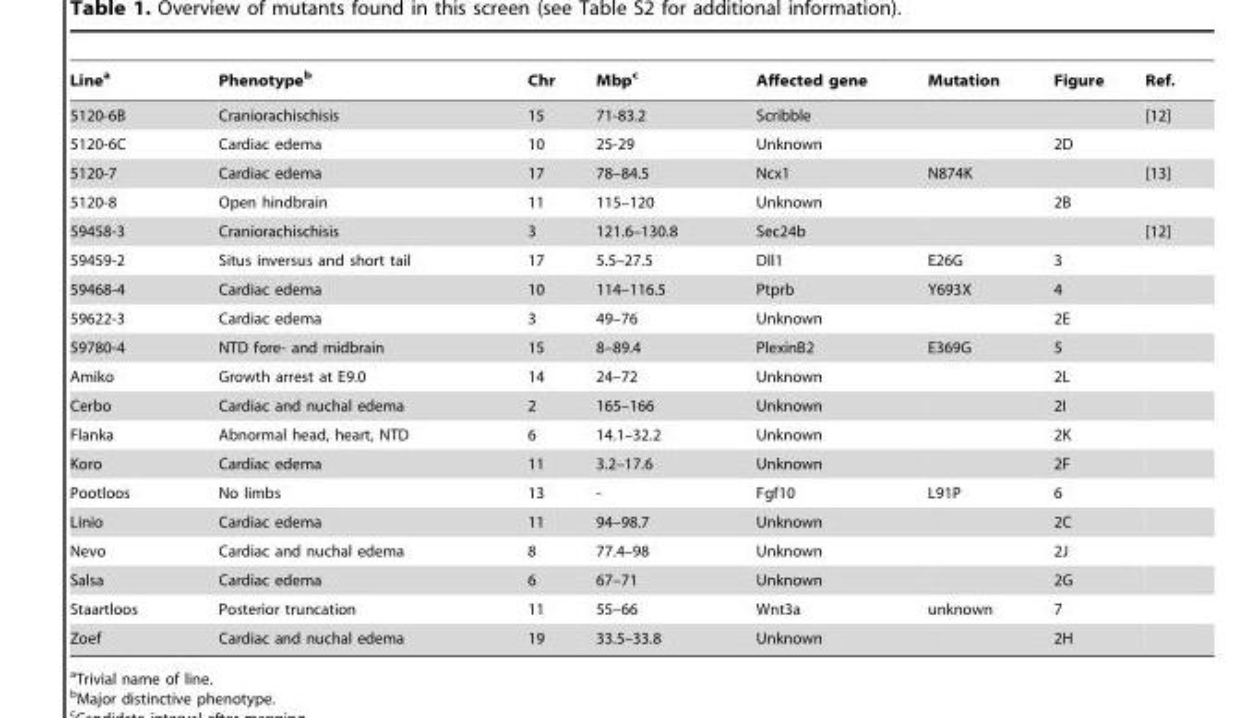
<table><thead><tr><td>Line<sup>a</sup></td><td>Phenotype<sup>b</sup></td><td>Chr</td><td>Mbp<sup>c</sup></td><td>Affected gene</td><td>Mutation</td><td>Figure</td><td>Ref.</td></tr></thead><tbody><tr><td>5120-6B</td><td>Craniorachischisis</td><td>15</td><td>71-83.2</td><td>Scribble</td><td></td><td></td><td>[12]</td></tr><tr><td>5120-6C</td><td>Cardiac edema</td><td>10</td><td>25-29</td><td>Unknown</td><td></td><td>2D</td><td></td></tr><tr><td>5120-7</td><td>Cardiac edema</td><td>17</td><td>78–84.5</td><td>Ncx1</td><td>N874K</td><td></td><td>[13]</td></tr><tr><td>5120-8</td><td>Open hindbrain</td><td>11</td><td>115–120</td><td>Unknown</td><td></td><td>2B</td><td></td></tr><tr><td>59458-3</td><td>Craniorachischisis</td><td>3</td><td>121.6–130.8</td><td>Sec24b</td><td></td><td></td><td>[12]</td></tr><tr><td>59459-2</td><td>Situs inversus and short tail</td><td>17</td><td>5.5–27.5</td><td>Dll1</td><td>E26G</td><td>3</td><td></td></tr><tr><td>59468-4</td><td>Cardiac edema</td><td>10</td><td>114–116.5</td><td>Ptprb</td><td>Y693X</td><td>4</td><td></td></tr><tr><td>59622-3</td><td>Cardiac edema</td><td>3</td><td>49–76</td><td>Unknown</td><td></td><td>2E</td><td></td></tr><tr><td>59780-4</td><td>NTD fore- and midbrain</td><td>15</td><td>8–89.4</td><td>PlexinB2</td><td>E369G</td><td>5</td><td></td></tr><tr><td>Amiko</td><td>Growth arrest at E9.0</td><td>14</td><td>24–72</td><td>Unknown</td><td></td><td>2L</td><td></td></tr><tr><td>Cerbo</td><td>Cardiac and nuchal edema</td><td>2</td><td>165–166</td><td>Unknown</td><td></td><td>2I</td><td></td></tr><tr><td>Flanka</td><td>Abnormal head, heart, NTD</td><td>6</td><td>14.1–32.2</td><td>Unknown</td><td></td><td>2K</td><td></td></tr><tr><td>Koro</td><td>Cardiac edema</td><td>11</td><td>3.2–17.6</td><td>Unknown</td><td></td><td>2F</td><td></td></tr><tr><td>Pootloos</td><td>No limbs</td><td>13</td><td>-</td><td>Fgf10</td><td>L91P</td><td>6</td><td></td></tr><tr><td>Linio</td><td>Cardiac edema</td><td>11</td><td>94–98.7</td><td>Unknown</td><td></td><td>2C</td><td></td></tr><tr><td>Nevo</td><td>Cardiac and nuchal edema</td><td>8</td><td>77.4–98</td><td>Unknown</td><td></td><td>2J</td><td></td></tr><tr><td>Salsa</td><td>Cardiac edema</td><td>6</td><td>67–71</td><td>Unknown</td><td></td><td>2G</td><td></td></tr><tr><td>Staartloos</td><td>Posterior truncation</td><td>11</td><td>55–66</td><td>Wnt3a</td><td>unknown</td><td>7</td><td></td></tr><tr><td>Zoef</td><td>Cardiac and nuchal edema</td><td>19</td><td>33.5–33.8</td><td>Unknown</td><td></td><td>2H</td><td></td></tr></tbody></table>